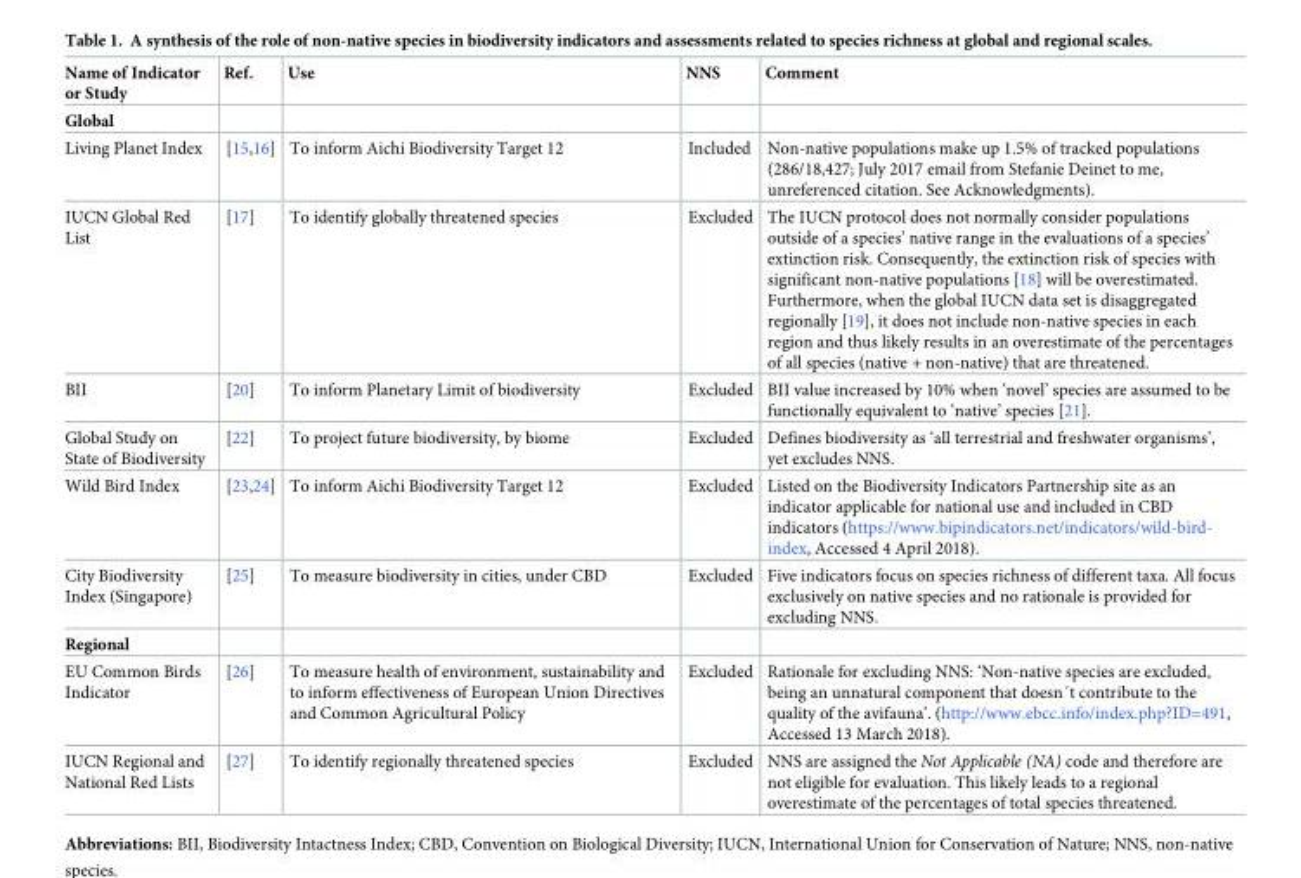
<table><thead><tr><td>Name of Indicator or Study</td><td>Ref.</td><td>Use</td><td>NNS</td><td>Comment</td></tr></thead><tbody><tr><td colspan="5">Global</td></tr><tr><td>Living Planet Index</td><td>[15,16]</td><td>To inform Aichi Biodiversity Target 12</td><td>Included</td><td>Non-native populations make up 1.5% of tracked populations (286/18,427; July 2017 email from Stefanie Deinet to me, unreferenced citation. See Acknowledgments).</td></tr><tr><td>IUCN Global Red List</td><td>[17]</td><td>To identify globally threatened species</td><td>Excluded</td><td>The IUCN protocol does not normally consider populations outside of a species’ native range in the evaluations of a species’ extinction risk. Consequently, the extinction risk of species with significant non-native populations [18] will be overestimated. Furthermore, when the global IUCN data set is disaggregated regionally [19], it does not include non-native species in each region and thus likely results in an overestimate of the percentages of all species (native + non-native) that are threatened.</td></tr><tr><td>BII</td><td>[20]</td><td>To inform Planetary Limit of biodiversity</td><td>Excluded</td><td>BII value increased by 10% when ‘novel’ species are assumed to be functionally equivalent to ‘native’ species [21].</td></tr><tr><td>Global Study on State of Biodiversity</td><td>[22]</td><td>To project future biodiversity, by biome</td><td>Excluded</td><td>Defines biodiversity as ‘all terrestrial and freshwater organisms’, yet excludes NNS.</td></tr><tr><td>Wild Bird Index</td><td>[23,24]</td><td>To inform Aichi Biodiversity Target 12</td><td>Excluded</td><td>Listed on the Biodiversity Indicators Partnership site as an indicator applicable for national use and included in CBD indicators (https://www.bipindicators.net/indicators/wild-bird- index, Accessed 4 April 2018).</td></tr><tr><td>City Biodiversity Index (Singapore)</td><td>[25]</td><td>To measure biodiversity in cities, under CBD</td><td>Excluded</td><td>Five indicators focus on species richness of different taxa. All focus exclusively on native species and no rationale is provided for excluding NNS.</td></tr><tr><td colspan="5">Regional</td></tr><tr><td>EU Common Birds Indicator</td><td>[26]</td><td>To measure health of environment, sustainability and to inform effectiveness of European Union Directives and Common Agricultural Policy</td><td>Excluded</td><td>Rationale for excluding NNS: ‘Non-native species are excluded, being an unnatural component that doesn´t contribute to the quality of the avifauna’. (http://www.ebcc.info/index.php?ID=491, Accessed 13 March 2018).</td></tr><tr><td>IUCN Regional and National Red Lists</td><td>[27]</td><td>To identify regionally threatened species</td><td>Excluded</td><td>NNS are assigned the Not Applicable (NA) code and therefore are not eligible for evaluation. This likely leads to a regional overestimate of the percentages of total species threatened.</td></tr></tbody></table>